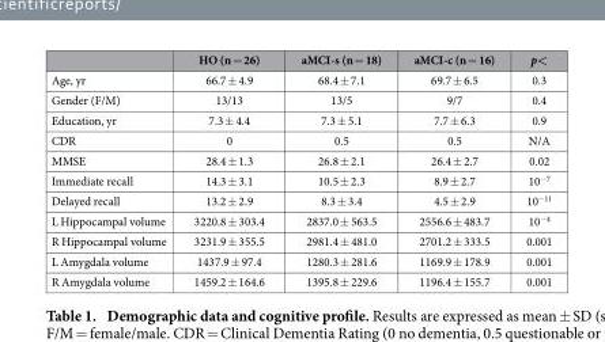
<table><thead><tr><td></td><td>HO (n = 26)</td><td>aMCI-s (n = 18)</td><td>aMCI-c (n = 16)</td><td>p&lt;</td></tr></thead><tbody><tr><td>Age, yr</td><td>66.7 ± 4.9</td><td>68.4 ± 7.1</td><td>69.7 ± 6.5</td><td>0.3</td></tr><tr><td>Gender (F/M)</td><td>13/13</td><td>13/5</td><td>9/7</td><td>0.4</td></tr><tr><td>Education, yr</td><td>7.3 ± 4.4</td><td>7.3 ± 5.1</td><td>7.7 ± 6.3</td><td>0.9</td></tr><tr><td>CDR</td><td>0</td><td>0.5</td><td>0.5</td><td>N/A</td></tr><tr><td>MMSE</td><td>28.4 ± 1.3</td><td>26.8 ± 2.1</td><td>26.4 ± 2.7</td><td>0.02</td></tr><tr><td>Immediate recall</td><td>14.3 ± 3.1</td><td>10.5 ± 2.3</td><td>8.9 ± 2.7</td><td>10<sup>−7</sup></td></tr><tr><td>Delayed recall</td><td>13.2 ± 2.9</td><td>8.3 ± 3.4</td><td>4.5 ± 2.9</td><td>10<sup>−11</sup></td></tr><tr><td>L Hippocampal volume</td><td>3220.8 ± 303.4</td><td>2837.0 ± 563.5</td><td>2556.6 ± 483.7</td><td>10<sup>−4</sup></td></tr><tr><td>R Hippocampal volume</td><td>3231.9 ± 355.5</td><td>2981.4 ± 481.0</td><td>2701.2 ± 333.5</td><td>0.001</td></tr><tr><td>L Amygdala volume</td><td>1437.9 ± 97.4</td><td>1280.3 ± 281.6</td><td>1169.9 ± 178.9</td><td>0.001</td></tr><tr><td>R Amygdala volume</td><td>1459.2 ± 164.6</td><td>1395.8 ± 229.6</td><td>1196.4 ± 155.7</td><td>0.001</td></tr></tbody></table>